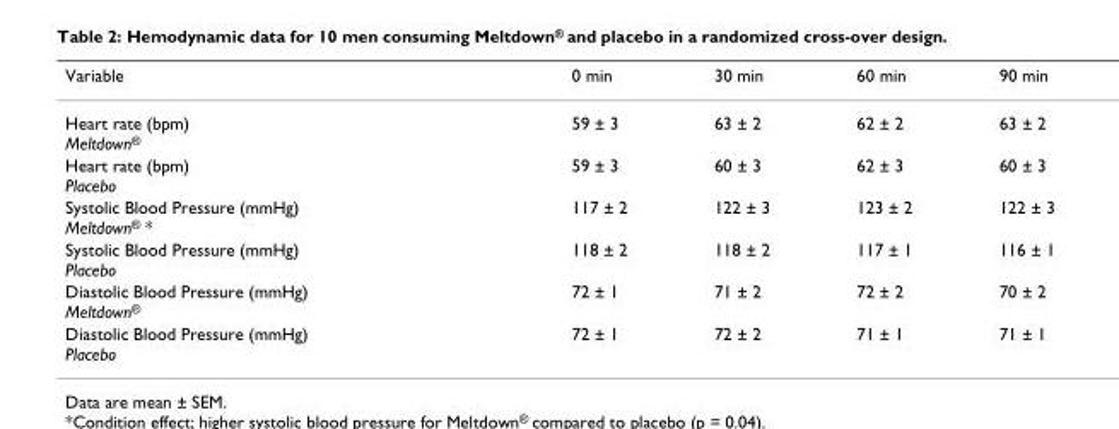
<table><thead><tr><td>Variable</td><td>0 min</td><td>30 min</td><td>60 min</td><td>90 min</td></tr></thead><tbody><tr><td>Heart rate (bpm) Meltdown<sup>®</sup></td><td>59 ± 3</td><td>63 ± 2</td><td>62 ± 2</td><td>63 ± 2</td></tr><tr><td>Heart rate (bpm) Placebo</td><td>59 ± 3</td><td>60 ± 3</td><td>62 ± 3</td><td>60 ± 3</td></tr><tr><td>Systolic Blood Pressure (mmHg) Meltdown<sup>®</sup> *</td><td>117 ± 2</td><td>122 ± 3</td><td>123 ± 2</td><td>122 ± 3</td></tr><tr><td>Systolic Blood Pressure (mmHg) Placebo</td><td>118 ± 2</td><td>118 ± 2</td><td>117 ± 1</td><td>116 ± 1</td></tr><tr><td>Diastolic Blood Pressure (mmHg) Meltdown<sup>®</sup></td><td>72 ± 1</td><td>71 ± 2</td><td>72 ± 2</td><td>70 ± 2</td></tr><tr><td>Diastolic Blood Pressure (mmHg) Placebo</td><td>72 ± 1</td><td>72 ± 2</td><td>71 ± 1</td><td>71 ± 1</td></tr></tbody></table>